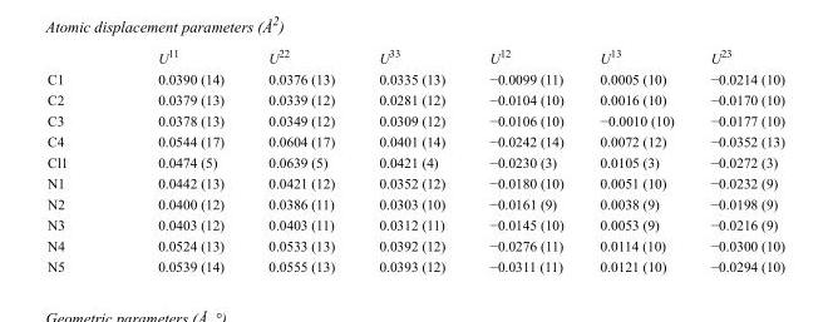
<table><thead><tr><td></td><td>U<sup>11</sup></td><td>U<sup>22</sup></td><td>U<sup>33</sup></td><td>U<sup>12</sup></td><td>U<sup>13</sup></td><td>U<sup>23</sup></td></tr></thead><tbody><tr><td>C1</td><td>0.0390 (14)</td><td>0.0376 (13)</td><td>0.0335 (13)</td><td>−0.0099 (11)</td><td>0.0005 (10)</td><td>−0.0214 (10)</td></tr><tr><td>C2</td><td>0.0379 (13)</td><td>0.0339 (12)</td><td>0.0281 (12)</td><td>−0.0104 (10)</td><td>0.0016 (10)</td><td>−0.0170 (10)</td></tr><tr><td>C3</td><td>0.0378 (13)</td><td>0.0349 (12)</td><td>0.0309 (12)</td><td>−0.0106 (10)</td><td>−0.0010 (10)</td><td>−0.0177 (10)</td></tr><tr><td>C4</td><td>0.0544 (17)</td><td>0.0604 (17)</td><td>0.0401 (14)</td><td>−0.0242 (14)</td><td>0.0072 (12)</td><td>−0.0352 (13)</td></tr><tr><td>Cl1</td><td>0.0474 (5)</td><td>0.0639 (5)</td><td>0.0421 (4)</td><td>−0.0230 (3)</td><td>0.0105 (3)</td><td>−0.0272 (3)</td></tr><tr><td>N1</td><td>0.0442 (13)</td><td>0.0421 (12)</td><td>0.0352 (12)</td><td>−0.0180 (10)</td><td>0.0051 (10)</td><td>−0.0232 (9)</td></tr><tr><td>N2</td><td>0.0400 (12)</td><td>0.0386 (11)</td><td>0.0303 (10)</td><td>−0.0161 (9)</td><td>0.0038 (9)</td><td>−0.0198 (9)</td></tr><tr><td>N3</td><td>0.0403 (12)</td><td>0.0403 (11)</td><td>0.0312 (11)</td><td>−0.0145 (10)</td><td>0.0053 (9)</td><td>−0.0216 (9)</td></tr><tr><td>N4</td><td>0.0524 (13)</td><td>0.0533 (13)</td><td>0.0392 (12)</td><td>−0.0276 (11)</td><td>0.0114 (10)</td><td>−0.0300 (10)</td></tr><tr><td>N5</td><td>0.0539 (14)</td><td>0.0555 (13)</td><td>0.0393 (12)</td><td>−0.0311 (11)</td><td>0.0121 (10)</td><td>−0.0294 (10)</td></tr></tbody></table>